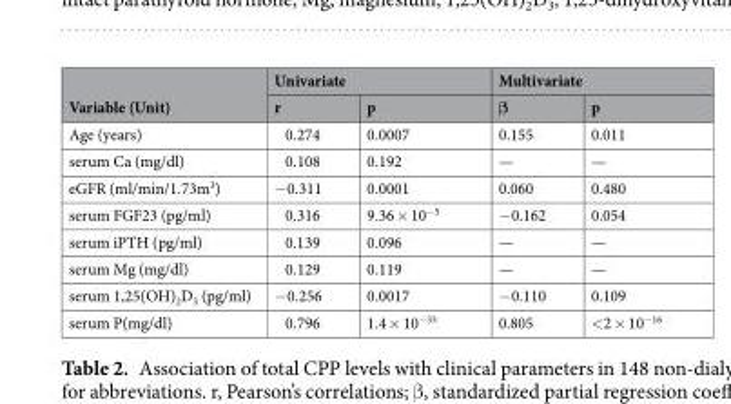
<table><thead><tr><td rowspan="2">Variable (Unit)</td><td colspan="2">Univariate</td><td colspan="2">Multivariate</td></tr><tr><td>r</td><td>p</td><td>β</td><td>p</td></tr></thead><tbody><tr><td>Age (years)</td><td>0.274</td><td>0.0007</td><td>0.155</td><td>0.011</td></tr><tr><td>serum Ca (mg/dl)</td><td>0.108</td><td>0.192</td><td>—</td><td>—</td></tr><tr><td>eGFR (ml/min/1.73m<sup>3</sup>)</td><td>−0.311</td><td>0.0001</td><td>0.060</td><td>0.480</td></tr><tr><td>serum FGF23 (pg/ml)</td><td>0.316</td><td>9.36 × 10<sup>−5</sup></td><td>−0.162</td><td>0.054</td></tr><tr><td>serum iPTH (pg/ml)</td><td>0.139</td><td>0.096</td><td>—</td><td>—</td></tr><tr><td>serum Mg (mg/dl)</td><td>0.129</td><td>0.119</td><td>—</td><td>—</td></tr><tr><td>serum 1,25(OH)<sub>2</sub>D<sub>3</sub> (pg/ml)</td><td>−0.256</td><td>0.0017</td><td>−0.110</td><td>0.109</td></tr><tr><td>serum P(mg/dl)</td><td>0.796</td><td>1.4 × 10<sup>−33</sup></td><td>0.805</td><td>&lt;2 × 10<sup>−16</sup></td></tr></tbody></table>